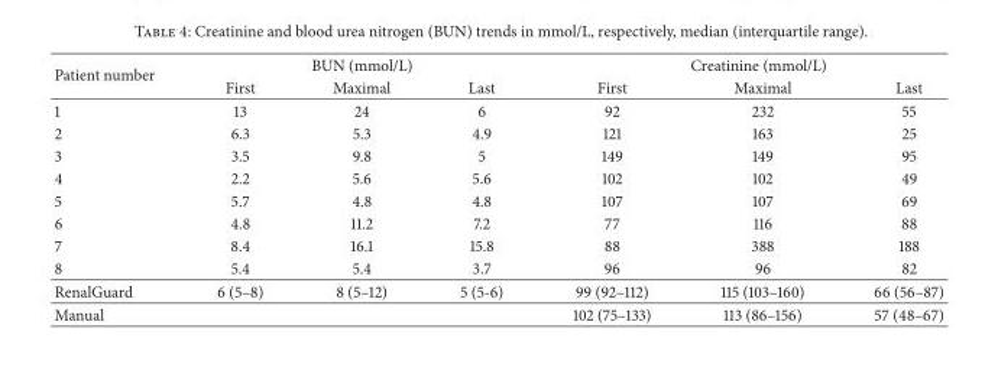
<table><thead><tr><td rowspan="2">Patient number</td><td colspan="3">BUN (mmol/L)</td><td colspan="3">Creatinine (mmol/L)</td></tr><tr><td>First</td><td>Maximal</td><td>Last</td><td>First</td><td>Maximal</td><td>Last</td></tr></thead><tbody><tr><td>1</td><td>13</td><td>24</td><td>6</td><td>92</td><td>232</td><td>55</td></tr><tr><td>2</td><td>6.3</td><td>5.3</td><td>4.9</td><td>121</td><td>163</td><td>25</td></tr><tr><td>3</td><td>3.5</td><td>9.8</td><td>5</td><td>149</td><td>149</td><td>95</td></tr><tr><td>4</td><td>2.2</td><td>5.6</td><td>5.6</td><td>102</td><td>102</td><td>49</td></tr><tr><td>5</td><td>5.7</td><td>4.8</td><td>4.8</td><td>107</td><td>107</td><td>69</td></tr><tr><td>6</td><td>4.8</td><td>11.2</td><td>7.2</td><td>77</td><td>116</td><td>88</td></tr><tr><td>7</td><td>8.4</td><td>16.1</td><td>15.8</td><td>88</td><td>388</td><td>188</td></tr><tr><td>8</td><td>5.4</td><td>5.4</td><td>3.7</td><td>96</td><td>96</td><td>82</td></tr><tr><td>RenalGuard</td><td>6 (5–8)</td><td>8 (5–12)</td><td>5 (5-6)</td><td>99 (92–112)</td><td>115 (103–160)</td><td>66 (56–87)</td></tr><tr><td>Manual</td><td></td><td></td><td></td><td>102 (75–133)</td><td>113 (86–156)</td><td>57 (48–67)</td></tr></tbody></table>